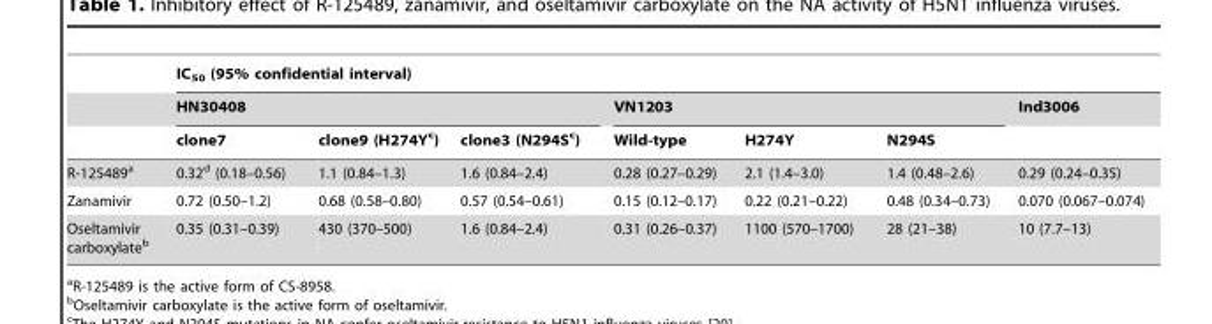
<table><thead><tr><td rowspan="3"></td><td colspan="7">IC<sub>50</sub> (95% confidential interval)</td></tr><tr><td colspan="3">HN30408</td><td colspan="3">VN1203</td><td rowspan="2">Ind3006</td></tr><tr><td>clone7</td><td>clone9 (H274Y<sup>c</sup>)</td><td>clone3 (N294S<sup>c</sup>)</td><td>Wild-type</td><td>H274Y</td><td>N294S</td></tr></thead><tbody><tr><td>R-125489<sup>a</sup></td><td>0.32<sup>d</sup> (0.18–0.56)</td><td>1.1 (0.84–1.3)</td><td>1.6 (0.84–2.4)</td><td>0.28 (0.27–0.29)</td><td>2.1 (1.4–3.0)</td><td>1.4 (0.48–2.6)</td><td>0.29 (0.24–0.35)</td></tr><tr><td>Zanamivir</td><td>0.72 (0.50–1.2)</td><td>0.68 (0.58–0.80)</td><td>0.57 (0.54–0.61)</td><td>0.15 (0.12–0.17)</td><td>0.22 (0.21–0.22)</td><td>0.48 (0.34–0.73)</td><td>0.070 (0.067–0.074)</td></tr><tr><td>Oseltamivir carboxylate<sup>b</sup></td><td>0.35 (0.31–0.39)</td><td>430 (370–500)</td><td>1.6 (0.84–2.4)</td><td>0.31 (0.26–0.37)</td><td>1100 (570–1700)</td><td>28 (21–38)</td><td>10 (7.7–13)</td></tr></tbody></table>